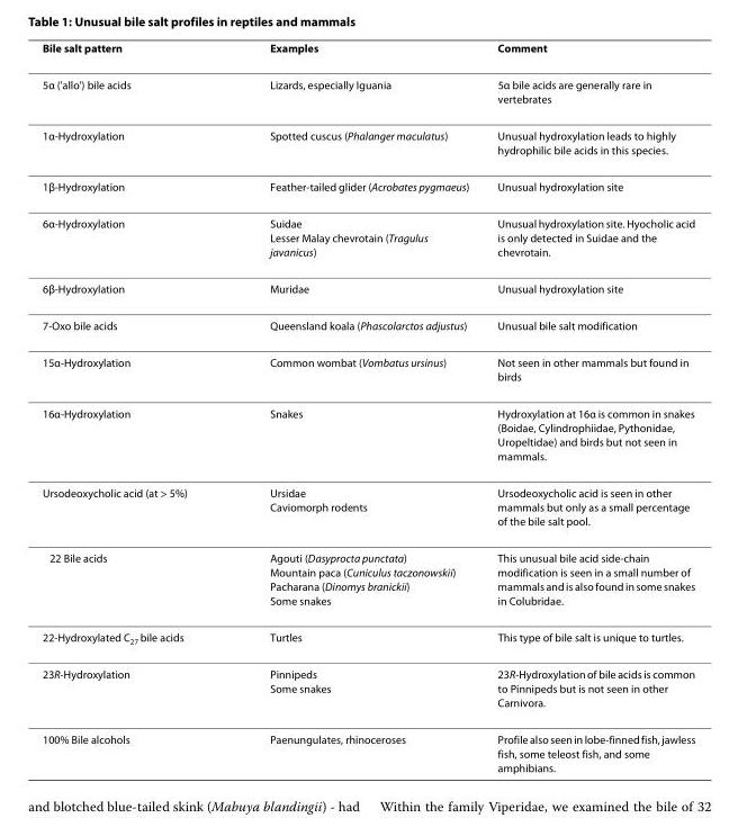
<table><thead><tr><td>Bile salt pattern</td><td>Examples</td><td>Comment</td></tr></thead><tbody><tr><td>5α (&#x27;allo&#x27;) bile acids</td><td>Lizards, especially Iguania</td><td>5α bile acids are generally rare in vertebrates</td></tr><tr><td>1α-Hydroxylation</td><td>Spotted cuscus (Phalanger maculatus)</td><td>Unusual hydroxylation leads to highly hydrophilic bile acids in this species.</td></tr><tr><td>1β-Hydroxylation</td><td>Feather-tailed glider (Acrobates pygmaeus)</td><td>Unusual hydroxylation site</td></tr><tr><td>6α-Hydroxylation</td><td>Suidae Lesser Malay chevrotain (Tragulus javanicus)</td><td>Unusual hydroxylation site. Hyocholic acid is only detected in Suidae and the chevrotain.</td></tr><tr><td>6β-Hydroxylation</td><td>Muridae</td><td>Unusual hydroxylation site</td></tr><tr><td>7-Oxo bile acids</td><td>Queensland koala (Phascolarctos adjustus)</td><td>Unusual bile salt modification</td></tr><tr><td>15α-Hydroxylation</td><td>Common wombat (Vombatus ursinus)</td><td>Not seen in other mammals but found in birds</td></tr><tr><td>16α-Hydroxylation</td><td>Snakes</td><td>Hydroxylation at 16α is common in snakes (Boidae, Cylindrophiidae, Pythonidae, Uropeltidae) and birds but not seen in mammals.</td></tr><tr><td>Ursodeoxycholic acid (at &gt; 5%)</td><td>Ursidae Caviomorph rodents</td><td>Ursodeoxycholic acid is seen in other mammals but only as a small percentage of the bile salt pool.</td></tr><tr><td>22 Bile acids</td><td>Agouti (Dasyprocta punctata) Mountain paca (Cuniculus taczonowskii) Pacharana (Dinomys branickii) Some snakes</td><td>This unusual bile acid side-chain modification is seen in a small number of mammals and is also found in some snakes in Colubridae.</td></tr><tr><td>22-Hydroxylated C27 bile acids</td><td>Turtles</td><td>This type of bile salt is unique to turtles.</td></tr><tr><td>23R-Hydroxylation</td><td>Pinnipeds Some snakes</td><td>23R-Hydroxylation of bile acids is common to Pinnipeds but is not seen in other Carnivora.</td></tr><tr><td>100% Bile alcohols</td><td>Paenungulates, rhinoceroses</td><td>Profile also seen in lobe-finned fish, jawless fish, some teleost fish, and some amphibians.</td></tr></tbody></table>